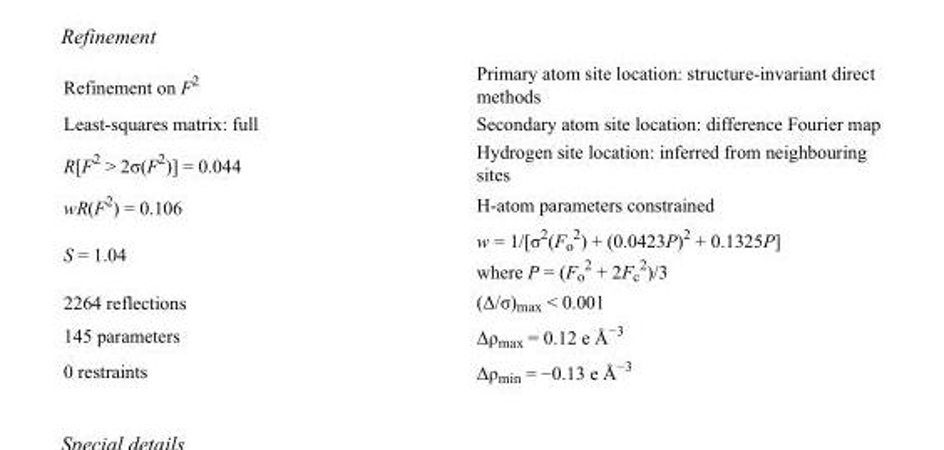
<table><tbody><tr><td>Refinement on F<sup>2</sup></td><td>Primary atom site location: structure-invariant direct methods</td></tr><tr><td>Least-squares matrix: full</td><td>Secondary atom site location: difference Fourier map</td></tr><tr><td>R[F<sup>2</sup> &gt; 2σ(F<sup>2</sup>)] = 0.044</td><td>Hydrogen site location: inferred from neighbouring sites</td></tr><tr><td>wR(F<sup>2</sup>) = 0.106</td><td>H-atom parameters constrained</td></tr><tr><td>S = 1.04</td><td>w = 1/[σ<sup>2</sup>(F<sub>o</sub> <sup>2</sup>) + (0.0423P)<sup>2</sup> + 0.1325P] where P = (F<sub>o</sub> <sup>2</sup> + 2F<sub>c</sub> <sup>2</sup>)/3</td></tr><tr><td>2264 reflections</td><td>(Δ/σ)<sub>max</sub> &lt; 0.001</td></tr><tr><td>145 parameters</td><td>Δρ<sub>max</sub> = 0.12 e Å<sup>−3</sup></td></tr><tr><td>0 restraints</td><td>Δρ<sub>min</sub> = −0.13 e Å<sup>−3</sup></td></tr></tbody></table>